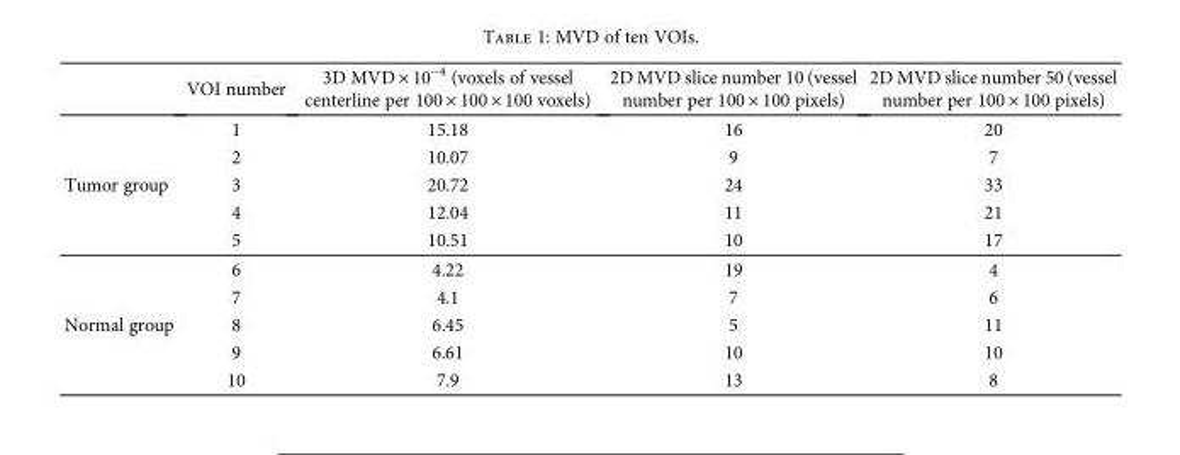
<table><thead><tr><td></td><td>VOI number</td><td>3D MVD × 10<sup>−4</sup> (voxels of vessel centerline per 100 × 100 × 100 voxels)</td><td>2D MVD slice number 10 (vessel number per 100 × 100 pixels)</td><td>2D MVD slice number 50 (vessel number per 100 × 100 pixels)</td></tr></thead><tbody><tr><td rowspan="5">Tumor group</td><td>1</td><td>15.18</td><td>16</td><td>20</td></tr><tr><td>2</td><td>10.07</td><td>9</td><td>7</td></tr><tr><td>3</td><td>20.72</td><td>24</td><td>33</td></tr><tr><td>4</td><td>12.04</td><td>11</td><td>21</td></tr><tr><td>5</td><td>10.51</td><td>10</td><td>17</td></tr><tr><td rowspan="5">Normal group</td><td>6</td><td>4.22</td><td>19</td><td>4</td></tr><tr><td>7</td><td>4.1</td><td>7</td><td>6</td></tr><tr><td>8</td><td>6.45</td><td>5</td><td>11</td></tr><tr><td>9</td><td>6.61</td><td>10</td><td>10</td></tr><tr><td>10</td><td>7.9</td><td>13</td><td>8</td></tr></tbody></table>